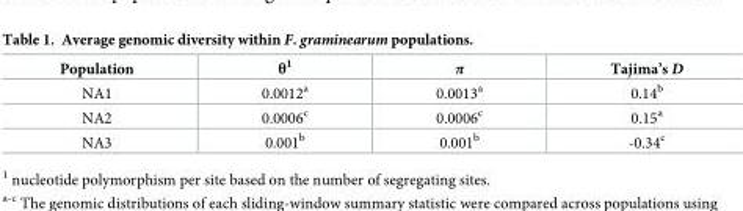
<table><thead><tr><td>Population</td><td>θ<sup>1</sup></td><td>π</td><td>Tajima’s D</td></tr></thead><tbody><tr><td>NA1</td><td>0.0012<sup>a</sup></td><td>0.0013<sup>a</sup></td><td>0.14<sup>b</sup></td></tr><tr><td>NA2</td><td>0.0006<sup>c</sup></td><td>0.0006<sup>c</sup></td><td>0.15<sup>a</sup></td></tr><tr><td>NA3</td><td>0.001<sup>b</sup></td><td>0.001<sup>b</sup></td><td>-0.34<sup>c</sup></td></tr></tbody></table>